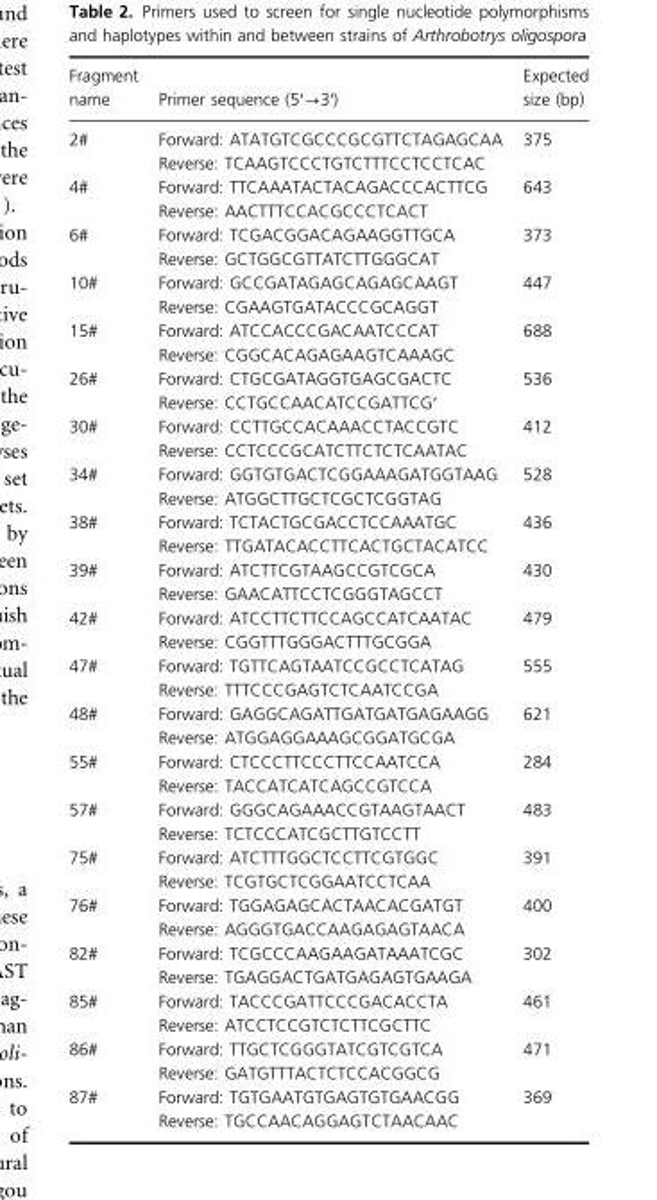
<table><thead><tr><td>Fragment name</td><td>Primer sequence (5′→3′)</td><td>Expected size (bp)</td></tr></thead><tbody><tr><td rowspan="2">2#</td><td>Forward: ATATGTCGCCCGCGTTCTAGAGCAA</td><td>375</td></tr><tr><td>Reverse: TCAAGTCCCTGTCTTTCCTCCTCAC</td><td></td></tr><tr><td rowspan="2">4#</td><td>Forward: TTCAAATACTACAGACCCACTTCG</td><td>643</td></tr><tr><td>Reverse: AACTTTCCACGCCCTCACT</td><td></td></tr><tr><td rowspan="2">6#</td><td>Forward: TCGACGGACAGAAGGTTGCA</td><td>373</td></tr><tr><td>Reverse: GCTGGCGTTATCTTGGGCAT</td><td></td></tr><tr><td rowspan="2">10#</td><td>Forward: GCCGATAGAGCAGAGCAAGT</td><td>447</td></tr><tr><td>Reverse: CGAAGTGATACCCGCAGGT</td><td></td></tr><tr><td rowspan="2">15#</td><td>Forward: ATCCACCCGACAATCCCAT</td><td>688</td></tr><tr><td>Reverse: CGGCACAGAGAAGTCAAAGC</td><td></td></tr><tr><td rowspan="2">26#</td><td>Forward: CTGCGATAGGTGAGCGACTC</td><td>536</td></tr><tr><td>Reverse: CCTGCCAACATCCGATTCG′</td><td></td></tr><tr><td rowspan="2">30#</td><td>Forward: CCTTGCCACAAACCTACCGTC</td><td>412</td></tr><tr><td>Reverse: CCTCCCGCATCTTCTCTCAATAC</td><td></td></tr><tr><td rowspan="2">34#</td><td>Forward: GGTGTGACTCGGAAAGATGGTAAG</td><td>528</td></tr><tr><td>Reverse: ATGGCTTGCTCGCTCGGTAG</td><td></td></tr><tr><td rowspan="2">38#</td><td>Forward: TCTACTGCGACCTCCAAATGC</td><td>436</td></tr><tr><td>Reverse: TTGATACACCTTCACTGCTACATCC</td><td></td></tr><tr><td rowspan="2">39#</td><td>Forward: ATCTTCGTAAGCCGTCGCA</td><td>430</td></tr><tr><td>Reverse: GAACATTCCTCGGGTAGCCT</td><td></td></tr><tr><td rowspan="2">42#</td><td>Forward: ATCCTTCTTCCAGCCATCAATAC</td><td>479</td></tr><tr><td>Reverse: CGGTTTGGGACTTTGCGGA</td><td></td></tr><tr><td rowspan="2">47#</td><td>Forward: TGTTCAGTAATCCGCCTCATAG</td><td>555</td></tr><tr><td>Reverse: TTTCCCGAGTCTCAATCCGA</td><td></td></tr><tr><td rowspan="2">48#</td><td>Forward: GAGGCAGATTGATGATGAGAAGG</td><td>621</td></tr><tr><td>Reverse: ATGGAGGAAAGCGGATGCGA</td><td></td></tr><tr><td rowspan="2">55#</td><td>Forward: CTCCCTTCCCTTCCAATCCA</td><td>284</td></tr><tr><td>Reverse: TACCATCATCAGCCGTCCA</td><td></td></tr><tr><td rowspan="2">57#</td><td>Forward: GGGCAGAAACCGTAAGTAACT</td><td>483</td></tr><tr><td>Reverse: TCTCCCATCGCTTGTCCTT</td><td></td></tr><tr><td rowspan="2">75#</td><td>Forward: ATCTTTGGCTCCTTCGTGGC</td><td>391</td></tr><tr><td>Reverse: TCGTGCTCGGAATCCTCAA</td><td></td></tr><tr><td rowspan="2">76#</td><td>Forward: TGGAGAGCACTAACACGATGT</td><td>400</td></tr><tr><td>Reverse: AGGGTGACCAAGAGAGTAACA</td><td></td></tr><tr><td rowspan="2">82#</td><td>Forward: TCGCCCAAGAAGATAAATCGC</td><td>302</td></tr><tr><td>Reverse: TGAGGACTGATGAGAGTGAAGA</td><td></td></tr><tr><td rowspan="2">85#</td><td>Forward: TACCCGATTCCCGACACCTA</td><td>461</td></tr><tr><td>Reverse: ATCCTCCGTCTCTTCGCTTC</td><td></td></tr><tr><td rowspan="2">86#</td><td>Forward: TTGCTCGGGTATCGTCGTCA</td><td>471</td></tr><tr><td>Reverse: GATGTTTACTCTCCACGGCG</td><td></td></tr><tr><td rowspan="2">87#</td><td>Forward: TGTGAATGTGAGTGTGAACGG</td><td>369</td></tr><tr><td>Reverse: TGCCAACAGGAGTCTAACAAC</td><td></td></tr></tbody></table>